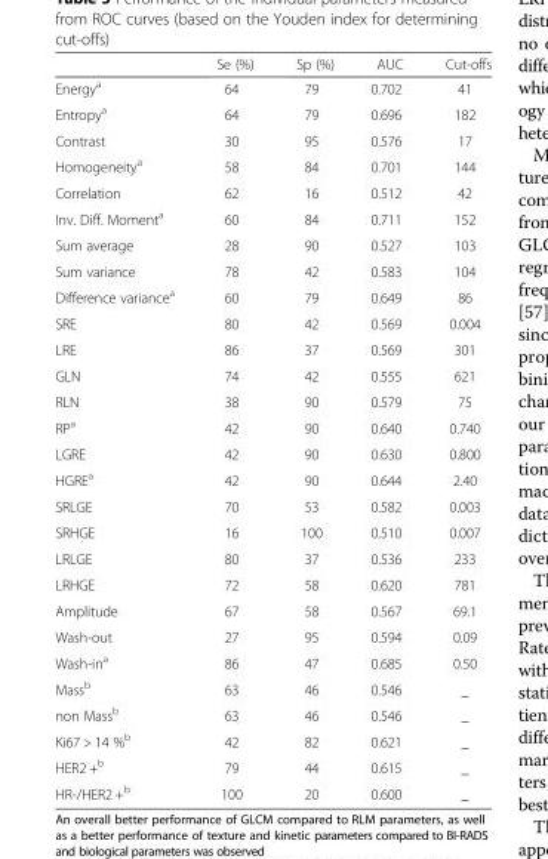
<table><thead><tr><td></td><td>Se (%)</td><td>Sp (%)</td><td>AUC</td><td>Cut-offs</td></tr></thead><tbody><tr><td>Energy<sup>a</sup></td><td>64</td><td>79</td><td>0.702</td><td>41</td></tr><tr><td>Entropy<sup>a</sup></td><td>64</td><td>79</td><td>0.696</td><td>182</td></tr><tr><td>Contrast</td><td>30</td><td>95</td><td>0.576</td><td>17</td></tr><tr><td>Homogeneity<sup>a</sup></td><td>58</td><td>84</td><td>0.701</td><td>144</td></tr><tr><td>Correlation</td><td>62</td><td>16</td><td>0.512</td><td>42</td></tr><tr><td>Inv. Diff. Moment<sup>a</sup></td><td>60</td><td>84</td><td>0.711</td><td>152</td></tr><tr><td>Sum average</td><td>28</td><td>90</td><td>0.527</td><td>103</td></tr><tr><td>Sum variance</td><td>78</td><td>42</td><td>0.583</td><td>104</td></tr><tr><td>Difference variance<sup>a</sup></td><td>60</td><td>79</td><td>0.649</td><td>86</td></tr><tr><td>SRE</td><td>80</td><td>42</td><td>0.569</td><td>0.004</td></tr><tr><td>LRE</td><td>86</td><td>37</td><td>0.569</td><td>301</td></tr><tr><td>GLN</td><td>74</td><td>42</td><td>0.555</td><td>621</td></tr><tr><td>RLN</td><td>38</td><td>90</td><td>0.579</td><td>75</td></tr><tr><td>RP<sup>a</sup></td><td>42</td><td>90</td><td>0.640</td><td>0.740</td></tr><tr><td>LGRE</td><td>42</td><td>90</td><td>0.630</td><td>0.800</td></tr><tr><td>HGRE<sup>a</sup></td><td>42</td><td>90</td><td>0.644</td><td>2.40</td></tr><tr><td>SRLGE</td><td>70</td><td>53</td><td>0.582</td><td>0.003</td></tr><tr><td>SRHGE</td><td>16</td><td>100</td><td>0.510</td><td>0.007</td></tr><tr><td>LRLGE</td><td>80</td><td>37</td><td>0.536</td><td>233</td></tr><tr><td>LRHGE</td><td>72</td><td>58</td><td>0.620</td><td>781</td></tr><tr><td>Amplitude</td><td>67</td><td>58</td><td>0.567</td><td>69.1</td></tr><tr><td>Wash-out</td><td>27</td><td>95</td><td>0.594</td><td>0.09</td></tr><tr><td>Wash-in<sup>a</sup></td><td>86</td><td>47</td><td>0.685</td><td>0.50</td></tr><tr><td>Mass<sup>b</sup></td><td>63</td><td>46</td><td>0.546</td><td>_</td></tr><tr><td>non Mass<sup>b</sup></td><td>63</td><td>46</td><td>0.546</td><td>_</td></tr><tr><td>Ki67 &gt; 14 %<sup>b</sup></td><td>42</td><td>82</td><td>0.621</td><td>_</td></tr><tr><td>HER2 +<sup>b</sup></td><td>79</td><td>44</td><td>0.615</td><td>_</td></tr><tr><td>HR-/HER2 +<sup>b</sup></td><td>100</td><td>20</td><td>0.600</td><td>_</td></tr></tbody></table>